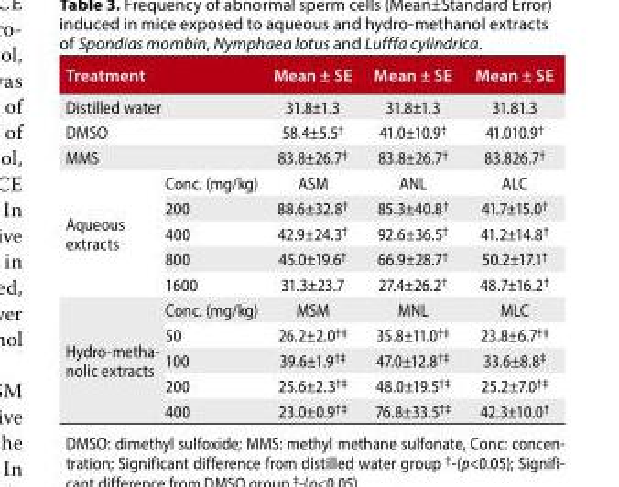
<table><thead><tr><td>Treatment</td><td></td><td>Mean ± SE</td><td>Mean ± SE</td><td>Mean ± SE</td></tr></thead><tbody><tr><td>Distilled water</td><td></td><td>31.8±1.3</td><td>31.8±1.3</td><td>31.81.3</td></tr><tr><td>DMSO</td><td></td><td>58.4±5.5<sup>†</sup></td><td>41.0±10.9<sup>†</sup></td><td>41.010.9<sup>†</sup></td></tr><tr><td>MMS</td><td></td><td>83.8±26.7<sup>†</sup></td><td>83.8±26.7<sup>†</sup></td><td>83.826.7<sup>†</sup></td></tr><tr><td rowspan="5">Aqueous extracts</td><td>Conc. (mg/kg)</td><td>ASM</td><td>ANL</td><td>ALC</td></tr><tr><td>200</td><td>88.6±32.8<sup>†</sup></td><td>85.3±40.8<sup>†</sup></td><td>41.7±15.0<sup>†</sup></td></tr><tr><td>400</td><td>42.9±24.3<sup>†</sup></td><td>92.6±36.5<sup>†</sup></td><td>41.2±14.8<sup>†</sup></td></tr><tr><td>800</td><td>45.0±19.6<sup>†</sup></td><td>66.9±28.7<sup>†</sup></td><td>50.2±17.1<sup>†</sup></td></tr><tr><td>1600</td><td>31.3±23.7</td><td>27.4±26.2<sup>†</sup></td><td>48.7±16.2<sup>†</sup></td></tr><tr><td rowspan="5">Hydro-metha- nolic extracts</td><td>Conc. (mg/kg)</td><td>MSM</td><td>MNL</td><td>MLC</td></tr><tr><td>50</td><td>26.2±2.0<sup>†‡</sup></td><td>35.8±11.0<sup>†‡</sup></td><td>23.8±6.7<sup>†‡</sup></td></tr><tr><td>100</td><td>39.6±1.9<sup>†‡</sup></td><td>47.0±12.8<sup>†‡</sup></td><td>33.6±8.8<sup>‡</sup></td></tr><tr><td>200</td><td>25.6±2.3<sup>†‡</sup></td><td>48.0±19.5<sup>†‡</sup></td><td>25.2±7.0<sup>†‡</sup></td></tr><tr><td>400</td><td>23.0±0.9<sup>†‡</sup></td><td>76.8±33.5<sup>†‡</sup></td><td>42.3±10.0†</td></tr></tbody></table>